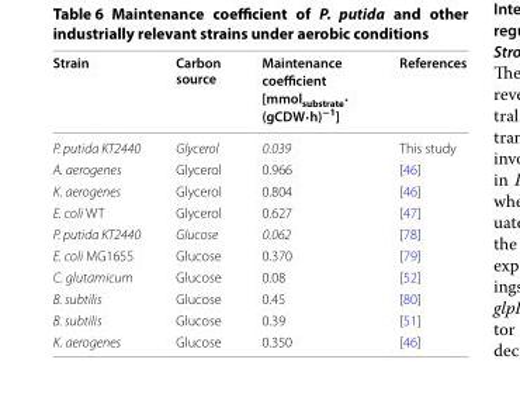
<table><thead><tr><td>Strain</td><td>Carbon source</td><td>Maintenance coefficient [mmol<sub>substrate</sub>· (gCDW·h)<sup>−1</sup>]</td><td>References</td></tr></thead><tbody><tr><td>P. putida KT2440</td><td>Glycerol</td><td>0.039</td><td>This study</td></tr><tr><td>A. aerogenes</td><td>Glycerol</td><td>0.966</td><td>[46]</td></tr><tr><td>K. aerogenes</td><td>Glycerol</td><td>0.804</td><td>[46]</td></tr><tr><td>E. coli WT</td><td>Glycerol</td><td>0.627</td><td>[47]</td></tr><tr><td>P. putida KT2440</td><td>Glucose</td><td>0.062</td><td>[78]</td></tr><tr><td>E. coli MG1655</td><td>Glucose</td><td>0.370</td><td>[79]</td></tr><tr><td>C. glutamicum</td><td>Glucose</td><td>0.08</td><td>[52]</td></tr><tr><td>B. subtilis</td><td>Glucose</td><td>0.45</td><td>[80]</td></tr><tr><td>B. subtilis</td><td>Glucose</td><td>0.39</td><td>[51]</td></tr><tr><td>K. aerogenes</td><td>Glucose</td><td>0.350</td><td>[46]</td></tr></tbody></table>